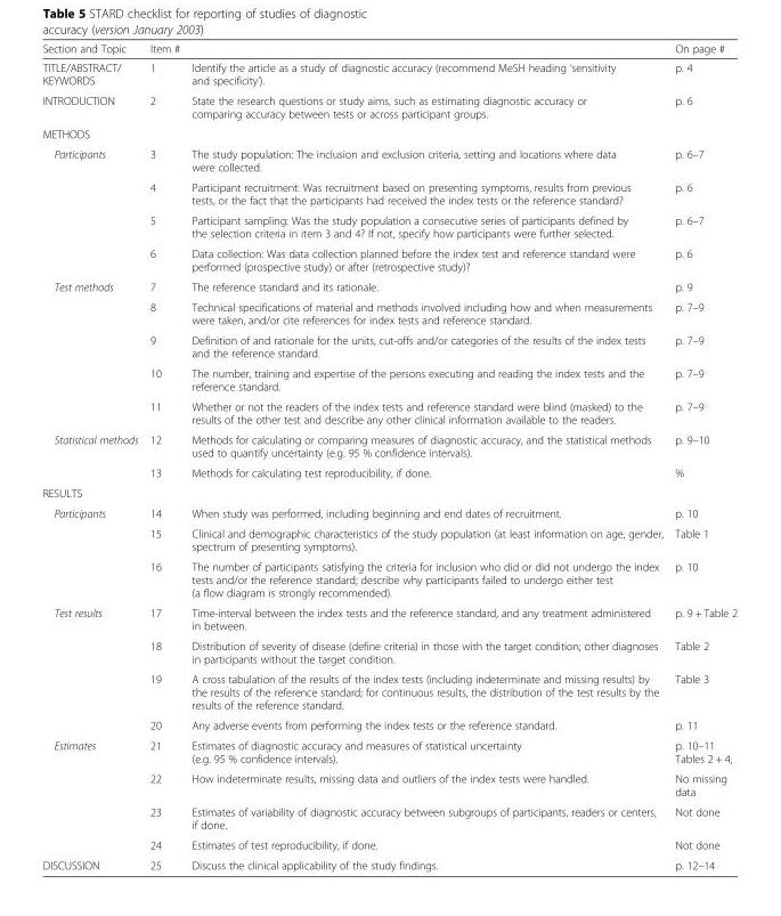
<table><thead><tr><td>Section and Topic</td><td>Item #</td><td></td><td>On page #</td></tr></thead><tbody><tr><td>TITLE/ABSTRACT/ KEYWORDS</td><td>1</td><td>Identify the article as a study of diagnostic accuracy (recommend MeSH heading ‘sensitivity and specificity’).</td><td>p. 4</td></tr><tr><td>INTRODUCTION</td><td>2</td><td>State the research questions or study aims, such as estimating diagnostic accuracy or comparing accuracy between tests or across participant groups.</td><td>p. 6</td></tr><tr><td colspan="4">METHODS</td></tr><tr><td rowspan="4">Participants</td><td>3</td><td>The study population: The inclusion and exclusion criteria, setting and locations where data were collected.</td><td>p. 6–7</td></tr><tr><td>4</td><td>Participant recruitment: Was recruitment based on presenting symptoms, results from previous tests, or the fact that the participants had received the index tests or the reference standard?</td><td>p. 6</td></tr><tr><td>5</td><td>Participant sampling: Was the study population a consecutive series of participants defined by the selection criteria in item 3 and 4? If not, specify how participants were further selected.</td><td>p. 6–7</td></tr><tr><td>6</td><td>Data collection: Was data collection planned before the index test and reference standard were performed (prospective study) or after (retrospective study)?</td><td>p. 6</td></tr><tr><td rowspan="5">Test methods</td><td>7</td><td>The reference standard and its rationale.</td><td>p. 9</td></tr><tr><td>8</td><td>Technical specifications of material and methods involved including how and when measurements were taken, and/or cite references for index tests and reference standard.</td><td>p. 7–9</td></tr><tr><td>9</td><td>Definition of and rationale for the units, cut-offs and/or categories of the results of the index tests and the reference standard.</td><td>p. 7–9</td></tr><tr><td>10</td><td>The number, training and expertise of the persons executing and reading the index tests and the reference standard.</td><td>p. 7–9</td></tr><tr><td>11</td><td>Whether or not the readers of the index tests and reference standard were blind (masked) to the results of the other test and describe any other clinical information available to the readers.</td><td>p. 7–9</td></tr><tr><td rowspan="2">Statistical methods</td><td>12</td><td>Methods for calculating or comparing measures of diagnostic accuracy, and the statistical methods used to quantify uncertainty (e.g. 95 % confidence intervals).</td><td>p. 9–10</td></tr><tr><td>13</td><td>Methods for calculating test reproducibility, if done.</td><td>%</td></tr><tr><td colspan="4">RESULTS</td></tr><tr><td rowspan="3">Participants</td><td>14</td><td>When study was performed, including beginning and end dates of recruitment.</td><td>p. 10</td></tr><tr><td>15</td><td>Clinical and demographic characteristics of the study population (at least information on age, gender, spectrum of presenting symptoms).</td><td>Table 1</td></tr><tr><td>16</td><td>The number of participants satisfying the criteria for inclusion who did or did not undergo the index tests and/or the reference standard; describe why participants failed to undergo either test (a flow diagram is strongly recommended).</td><td>p. 10</td></tr><tr><td rowspan="4">Test results</td><td>17</td><td>Time-interval between the index tests and the reference standard, and any treatment administered in between.</td><td>p. 9 + Table 2</td></tr><tr><td>18</td><td>Distribution of severity of disease (define criteria) in those with the target condition; other diagnoses in participants without the target condition.</td><td>Table 2</td></tr><tr><td>19</td><td>A cross tabulation of the results of the index tests (including indeterminate and missing results) by the results of the reference standard; for continuous results, the distribution of the test results by the results of the reference standard.</td><td>Table 3</td></tr><tr><td>20</td><td>Any adverse events from performing the index tests or the reference standard.</td><td>p. 11</td></tr><tr><td rowspan="4">Estimates</td><td>21</td><td>Estimates of diagnostic accuracy and measures of statistical uncertainty (e.g. 95 % confidence intervals).</td><td>p. 10–11 Tables 2 + 4,</td></tr><tr><td>22</td><td>How indeterminate results, missing data and outliers of the index tests were handled.</td><td>No missing data</td></tr><tr><td>23</td><td>Estimates of variability of diagnostic accuracy between subgroups of participants, readers or centers, if done.</td><td>Not done</td></tr><tr><td>24</td><td>Estimates of test reproducibility, if done.</td><td>Not done</td></tr><tr><td>DISCUSSION</td><td>25</td><td>Discuss the clinical applicability of the study findings.</td><td>p. 12–14</td></tr></tbody></table>